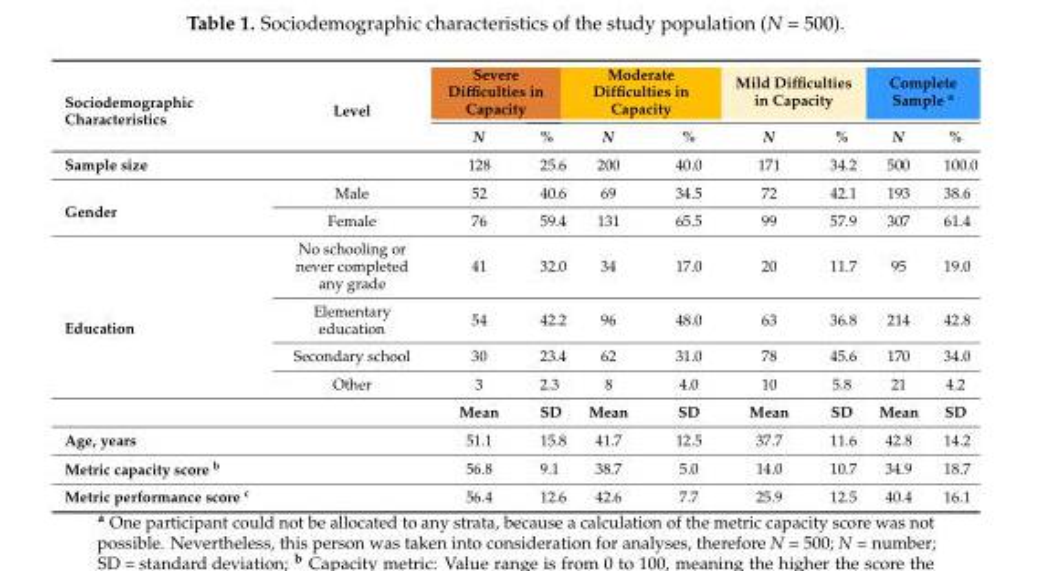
<table><thead><tr><td rowspan="2">Sociodemographic Characteristics</td><td rowspan="2">Level</td><td colspan="2">Severe Difficulties in Capacity</td><td colspan="2">Moderate Difficulties in Capacity</td><td colspan="2">Mild Difficulties in Capacity</td><td colspan="2">Complete Sample <sup>a</sup></td></tr><tr><td>N</td><td>%</td><td>N</td><td>%</td><td>N</td><td>%</td><td>N</td><td>%</td></tr></thead><tbody><tr><td>Sample size</td><td></td><td>128</td><td>25.6</td><td>200</td><td>40.0</td><td>171</td><td>34.2</td><td>500</td><td>100.0</td></tr><tr><td rowspan="2">Gender</td><td>Male</td><td>52</td><td>40.6</td><td>69</td><td>34.5</td><td>72</td><td>42.1</td><td>193</td><td>38.6</td></tr><tr><td>Female</td><td>76</td><td>59.4</td><td>131</td><td>65.5</td><td>99</td><td>57.9</td><td>307</td><td>61.4</td></tr><tr><td rowspan="5">Education</td><td>No schooling or never completed any grade</td><td>41</td><td>32.0</td><td>34</td><td>17.0</td><td>20</td><td>11.7</td><td>95</td><td>19.0</td></tr><tr><td>Elementary education</td><td>54</td><td>42.2</td><td>96</td><td>48.0</td><td>63</td><td>36.8</td><td>214</td><td>42.8</td></tr><tr><td>Secondary school</td><td>30</td><td>23.4</td><td>62</td><td>31.0</td><td>78</td><td>45.6</td><td>170</td><td>34.0</td></tr><tr><td>Other</td><td>3</td><td>2.3</td><td>8</td><td>4.0</td><td>10</td><td>5.8</td><td>21</td><td>4.2</td></tr><tr><td></td><td>Mean</td><td>SD</td><td>Mean</td><td>SD</td><td>Mean</td><td>SD</td><td>Mean</td><td>SD</td></tr><tr><td>Age, years</td><td></td><td>51.1</td><td>15.8</td><td>41.7</td><td>12.5</td><td>37.7</td><td>11.6</td><td>42.8</td><td>14.2</td></tr><tr><td>Metric capacity score <sup>b</sup></td><td></td><td>56.8</td><td>9.1</td><td>38.7</td><td>5.0</td><td>14.0</td><td>10.7</td><td>34.9</td><td>18.7</td></tr><tr><td>Metric performance score <sup>c</sup></td><td></td><td>56.4</td><td>12.6</td><td>42.6</td><td>7.7</td><td>25.9</td><td>12.5</td><td>40.4</td><td>16.1</td></tr></tbody></table>